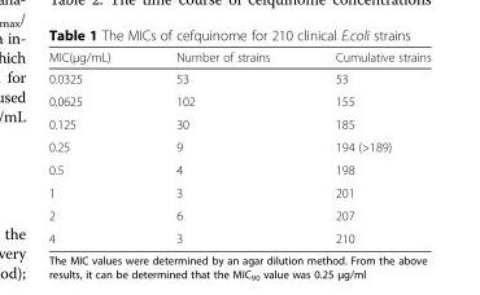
<table><thead><tr><td>MIC(μg/mL)</td><td>Number of strains</td><td>Cumulative strains</td></tr></thead><tbody><tr><td>0.0325</td><td>53</td><td>53</td></tr><tr><td>0.0625</td><td>102</td><td>155</td></tr><tr><td>0.125</td><td>30</td><td>185</td></tr><tr><td>0.25</td><td>9</td><td>194 (&gt;189)</td></tr><tr><td>0.5</td><td>4</td><td>198</td></tr><tr><td>1</td><td>3</td><td>201</td></tr><tr><td>2</td><td>6</td><td>207</td></tr><tr><td>4</td><td>3</td><td>210</td></tr></tbody></table>